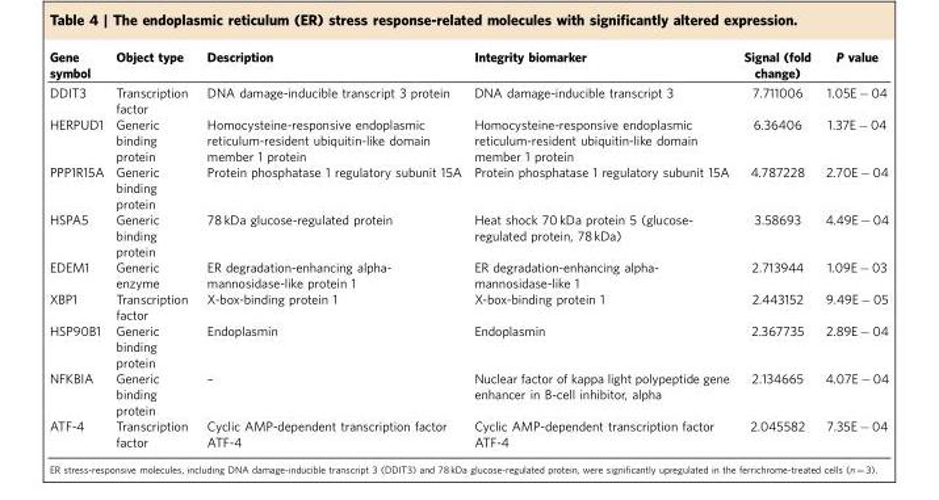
<table><thead><tr><td>Gene symbol</td><td>Object type</td><td>Description</td><td>Integrity biomarker</td><td>Signal (fold change)</td><td>P value</td></tr></thead><tbody><tr><td>DDIT3</td><td>Transcription factor</td><td>DNA damage-inducible transcript 3 protein</td><td>DNA damage-inducible transcript 3</td><td>7.711006</td><td>1.05E − 04</td></tr><tr><td>HERPUD1</td><td>Generic binding protein</td><td>Homocysteine-responsive endoplasmic reticulum-resident ubiquitin-like domain member 1 protein</td><td>Homocysteine-responsive endoplasmic reticulum-resident ubiquitin-like domain member 1 protein</td><td>6.36406</td><td>1.37E − 04</td></tr><tr><td>PPP1R15A</td><td>Generic binding protein</td><td>Protein phosphatase 1 regulatory subunit 15A</td><td>Protein phosphatase 1 regulatory subunit 15A</td><td>4.787228</td><td>2.70E − 04</td></tr><tr><td>HSPA5</td><td>Generic binding protein</td><td>78 kDa glucose-regulated protein</td><td>Heat shock 70 kDa protein 5 (glucose- regulated protein, 78 kDa)</td><td>3.58693</td><td>4.49E − 04</td></tr><tr><td>EDEM1</td><td>Generic enzyme</td><td>ER degradation-enhancing alpha- mannosidase-like protein 1</td><td>ER degradation-enhancing alpha- mannosidase-like 1</td><td>2.713944</td><td>1.09E − 03</td></tr><tr><td>XBP1</td><td>Transcription factor</td><td>X-box-binding protein 1</td><td>X-box-binding protein 1</td><td>2.443152</td><td>9.49E − 05</td></tr><tr><td>HSP90B1</td><td>Generic binding protein</td><td>Endoplasmin</td><td>Endoplasmin</td><td>2.367735</td><td>2.89E − 04</td></tr><tr><td>NFKBIA</td><td>Generic binding protein</td><td>–</td><td>Nuclear factor of kappa light polypeptide gene enhancer in B-cell inhibitor, alpha</td><td>2.134665</td><td>4.07E − 04</td></tr><tr><td>ATF-4</td><td>Transcription factor</td><td>Cyclic AMP-dependent transcription factor ATF-4</td><td>Cyclic AMP-dependent transcription factor ATF-4</td><td>2.045582</td><td>7.35E − 04</td></tr></tbody></table>